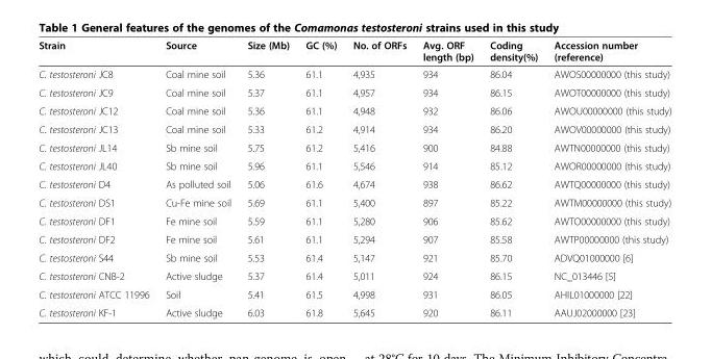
<table><thead><tr><td>Strain</td><td>Source</td><td>Size (Mb)</td><td>GC (%)</td><td>No. of ORFs</td><td>Avg. ORF length (bp)</td><td>Coding density(%)</td><td>Accession number (reference)</td></tr></thead><tbody><tr><td>C. testosteroni JC8</td><td>Coal mine soil</td><td>5.36</td><td>61.1</td><td>4,935</td><td>934</td><td>86.04</td><td>AWOS00000000 (this study)</td></tr><tr><td>C. testosteroni JC9</td><td>Coal mine soil</td><td>5.37</td><td>61.1</td><td>4,957</td><td>934</td><td>86.15</td><td>AWOT00000000 (this study)</td></tr><tr><td>C. testosteroni JC12</td><td>Coal mine soil</td><td>5.36</td><td>61.1</td><td>4,948</td><td>932</td><td>86.06</td><td>AWOU00000000 (this study)</td></tr><tr><td>C. testosteroni JC13</td><td>Coal mine soil</td><td>5.33</td><td>61.2</td><td>4,914</td><td>934</td><td>86.20</td><td>AWOV00000000 (this study)</td></tr><tr><td>C. testosteroni JL14</td><td>Sb mine soil</td><td>5.75</td><td>61.2</td><td>5,416</td><td>900</td><td>84.88</td><td>AWTN00000000 (this study)</td></tr><tr><td>C. testosteroni JL40</td><td>Sb mine soil</td><td>5.96</td><td>61.1</td><td>5,546</td><td>914</td><td>85.12</td><td>AWOR00000000 (this study)</td></tr><tr><td>C. testosteroni D4</td><td>As polluted soil</td><td>5.06</td><td>61.6</td><td>4,674</td><td>938</td><td>86.62</td><td>AWTQ00000000 (this study)</td></tr><tr><td>C. testosteroni DS1</td><td>Cu-Fe mine soil</td><td>5.69</td><td>61.1</td><td>5,400</td><td>897</td><td>85.22</td><td>AWTM00000000 (this study)</td></tr><tr><td>C. testosteroni DF1</td><td>Fe mine soil</td><td>5.59</td><td>61.1</td><td>5,280</td><td>906</td><td>85.62</td><td>AWTO00000000 (this study)</td></tr><tr><td>C. testosteroni DF2</td><td>Fe mine soil</td><td>5.61</td><td>61.1</td><td>5,294</td><td>907</td><td>85.58</td><td>AWTP00000000 (this study)</td></tr><tr><td>C. testosteroni S44</td><td>Sb mine soil</td><td>5.53</td><td>61.4</td><td>5,147</td><td>921</td><td>85.70</td><td>ADVQ01000000 [6]</td></tr><tr><td>C. testosteroni CNB-2</td><td>Active sludge</td><td>5.37</td><td>61.4</td><td>5,011</td><td>924</td><td>86.15</td><td>NC_013446 [5]</td></tr><tr><td>C. testosteroni ATCC 11996</td><td>Soil</td><td>5.41</td><td>61.5</td><td>4,998</td><td>931</td><td>86.05</td><td>AHIL01000000 [22]</td></tr><tr><td>C. testosteroni KF-1</td><td>Active sludge</td><td>6.03</td><td>61.8</td><td>5,645</td><td>920</td><td>86.11</td><td>AAUJ02000000 [23]</td></tr></tbody></table>